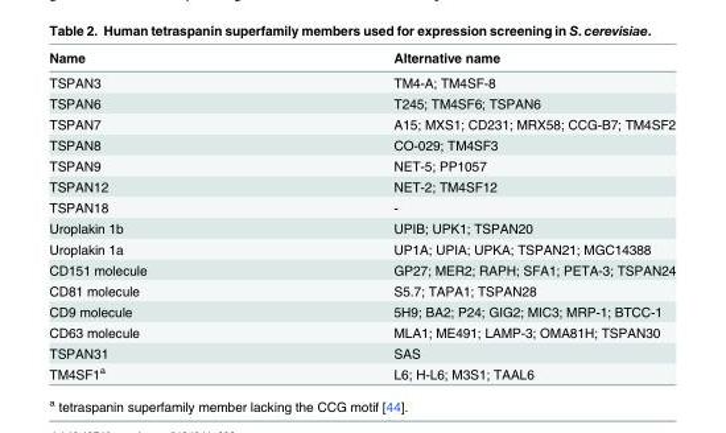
<table><thead><tr><td>Name</td><td>Alternative name</td></tr></thead><tbody><tr><td>TSPAN3</td><td>TM4-A; TM4SF-8</td></tr><tr><td>TSPAN6</td><td>T245; TM4SF6; TSPAN6</td></tr><tr><td>TSPAN7</td><td>A15; MXS1; CD231; MRX58; CCG-B7; TM4SF2</td></tr><tr><td>TSPAN8</td><td>CO-029; TM4SF3</td></tr><tr><td>TSPAN9</td><td>NET-5; PP1057</td></tr><tr><td>TSPAN12</td><td>NET-2; TM4SF12</td></tr><tr><td>TSPAN18</td><td>-</td></tr><tr><td>Uroplakin 1b</td><td>UPIB; UPK1; TSPAN20</td></tr><tr><td>Uroplakin 1a</td><td>UP1A; UPIA; UPKA; TSPAN21; MGC14388</td></tr><tr><td>CD151 molecule</td><td>GP27; MER2; RAPH; SFA1; PETA-3; TSPAN24</td></tr><tr><td>CD81 molecule</td><td>S5.7; TAPA1; TSPAN28</td></tr><tr><td>CD9 molecule</td><td>5H9; BA2; P24; GIG2; MIC3; MRP-1; BTCC-1</td></tr><tr><td>CD63 molecule</td><td>MLA1; ME491; LAMP-3; OMA81H; TSPAN30</td></tr><tr><td>TSPAN31</td><td>SAS</td></tr><tr><td>TM4SF1<sup>a</sup></td><td>L6; H-L6; M3S1; TAAL6</td></tr></tbody></table>